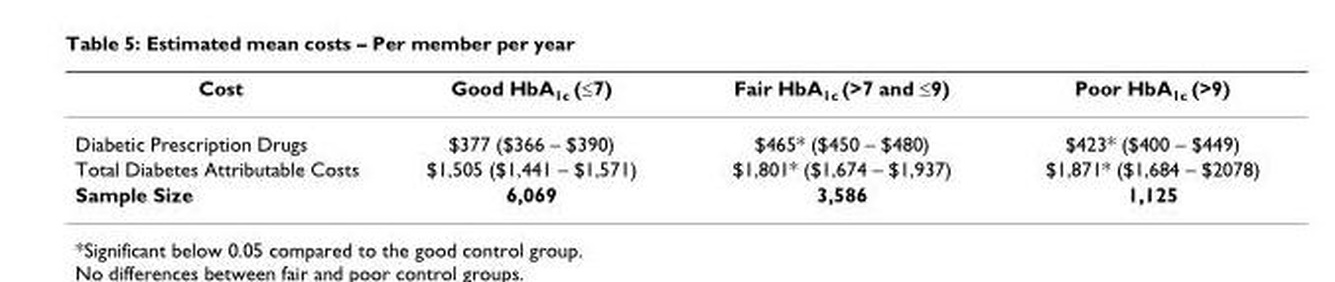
<table><thead><tr><td>Cost</td><td>Good HbA<sub>1c</sub> (≤7)</td><td>Fair HbA<sub>1c</sub> (&gt;7 and ≤9)</td><td>Poor HbA<sub>1c</sub> (&gt;9)</td></tr></thead><tbody><tr><td>Diabetic Prescription Drugs</td><td>$377 ($366 – $390)</td><td>$465* ($450 – $480)</td><td>$423* ($400 – $449)</td></tr><tr><td>Total Diabetes Attributable Costs</td><td>$1,505 ($1,441 – $1,571)</td><td>$1,801* ($1,674 – $1,937)</td><td>$1,871* ($1,684 – $2078)</td></tr><tr><td>Sample Size</td><td>6,069</td><td>3,586</td><td>1,125</td></tr></tbody></table>